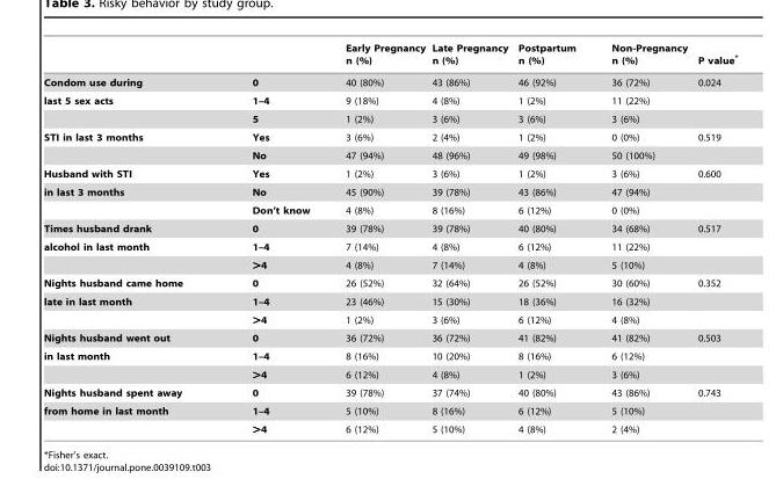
<table><thead><tr><td></td><td></td><td>Early Pregnancy n (%)</td><td>Late Pregnancy n (%)</td><td>Postpartum n (%)</td><td>Non-Pregnancy n (%)</td><td>P value*</td></tr></thead><tbody><tr><td>Condom use during</td><td>0</td><td>40 (80%)</td><td>43 (86%)</td><td>46 (92%)</td><td>36 (72%)</td><td>0.024</td></tr><tr><td rowspan="2">last 5 sex acts</td><td>1–4</td><td>9 (18%)</td><td>4 (8%)</td><td>1 (2%)</td><td>11 (22%)</td><td></td></tr><tr><td>5</td><td>1 (2%)</td><td>3 (6%)</td><td>3 (6%)</td><td>3 (6%)</td><td></td></tr><tr><td rowspan="2">STI in last 3 months</td><td>Yes</td><td>3 (6%)</td><td>2 (4%)</td><td>1 (2%)</td><td>0 (0%)</td><td>0.519</td></tr><tr><td>No</td><td>47 (94%)</td><td>48 (96%)</td><td>49 (98%)</td><td>50 (100%)</td><td></td></tr><tr><td>Husband with STI</td><td>Yes</td><td>1 (2%)</td><td>3 (6%)</td><td>1 (2%)</td><td>3 (6%)</td><td>0.600</td></tr><tr><td rowspan="2">in last 3 months</td><td>No</td><td>45 (90%)</td><td>39 (78%)</td><td>43 (86%)</td><td>47 (94%)</td><td></td></tr><tr><td>Don’t know</td><td>4 (8%)</td><td>8 (16%)</td><td>6 (12%)</td><td>0 (0%)</td><td></td></tr><tr><td>Times husband drank</td><td>0</td><td>39 (78%)</td><td>39 (78%)</td><td>40 (80%)</td><td>34 (68%)</td><td>0.517</td></tr><tr><td rowspan="2">alcohol in last month</td><td>1–4</td><td>7 (14%)</td><td>4 (8%)</td><td>6 (12%)</td><td>11 (22%)</td><td></td></tr><tr><td>&gt;4</td><td>4 (8%)</td><td>7 (14%)</td><td>4 (8%)</td><td>5 (10%)</td><td></td></tr><tr><td>Nights husband came home</td><td>0</td><td>26 (52%)</td><td>32 (64%)</td><td>26 (52%)</td><td>30 (60%)</td><td>0.352</td></tr><tr><td rowspan="2">late in last month</td><td>1–4</td><td>23 (46%)</td><td>15 (30%)</td><td>18 (36%)</td><td>16 (32%)</td><td></td></tr><tr><td>&gt;4</td><td>1 (2%)</td><td>3 (6%)</td><td>6 (12%)</td><td>4 (8%)</td><td></td></tr><tr><td>Nights husband went out</td><td>0</td><td>36 (72%)</td><td>36 (72%)</td><td>41 (82%)</td><td>41 (82%)</td><td>0.503</td></tr><tr><td rowspan="2">in last month</td><td>1–4</td><td>8 (16%)</td><td>10 (20%)</td><td>8 (16%)</td><td>6 (12%)</td><td></td></tr><tr><td>&gt;4</td><td>6 (12%)</td><td>4 (8%)</td><td>1 (2%)</td><td>3 (6%)</td><td></td></tr><tr><td>Nights husband spent away</td><td>0</td><td>39 (78%)</td><td>37 (74%)</td><td>40 (80%)</td><td>43 (86%)</td><td>0.743</td></tr><tr><td rowspan="2">from home in last month</td><td>1–4</td><td>5 (10%)</td><td>8 (16%)</td><td>6 (12%)</td><td>5 (10%)</td><td></td></tr><tr><td>&gt;4</td><td>6 (12%)</td><td>5 (10%)</td><td>4 (8%)</td><td>2 (4%)</td><td></td></tr></tbody></table>